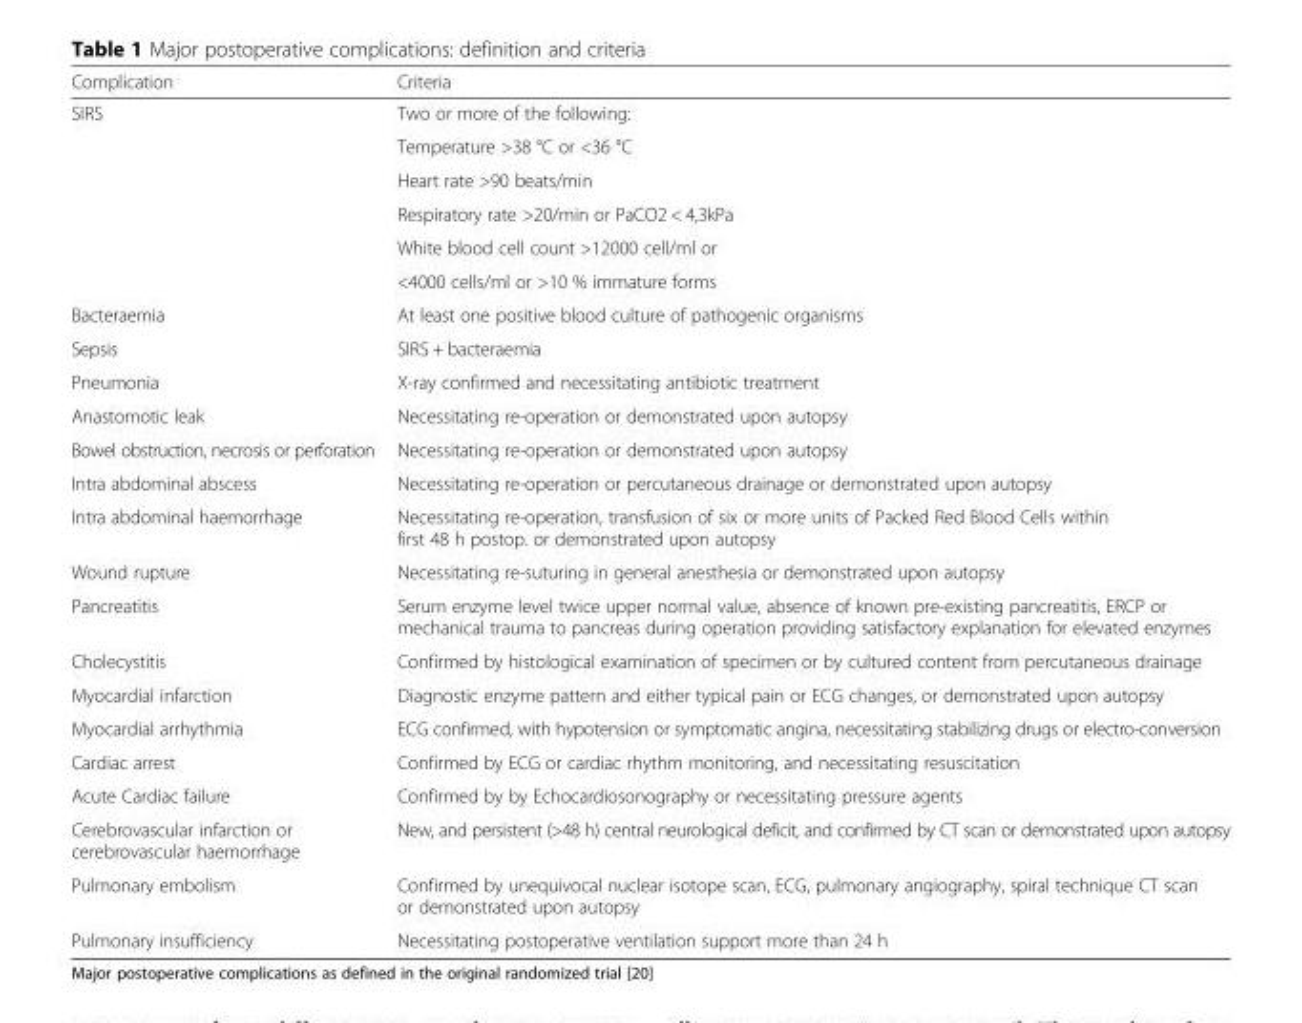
<table><thead><tr><td>Complication</td><td>Criteria</td></tr></thead><tbody><tr><td rowspan="6">SIRS</td><td>Two or more of the following:</td></tr><tr><td>Temperature &gt;38 °C or &lt;36 °C</td></tr><tr><td>Heart rate &gt;90 beats/min</td></tr><tr><td>Respiratory rate &gt;20/min or PaCO2 &lt; 4,3kPa</td></tr><tr><td>White blood cell count &gt;12000 cell/ml or</td></tr><tr><td>&lt;4000 cells/ml or &gt;10 % immature forms</td></tr><tr><td>Bacteraemia</td><td>At least one positive blood culture of pathogenic organisms</td></tr><tr><td>Sepsis</td><td>SIRS + bacteraemia</td></tr><tr><td>Pneumonia</td><td>X-ray confirmed and necessitating antibiotic treatment</td></tr><tr><td>Anastomotic leak</td><td>Necessitating re-operation or demonstrated upon autopsy</td></tr><tr><td>Bowel obstruction, necrosis or perforation</td><td>Necessitating re-operation or demonstrated upon autopsy</td></tr><tr><td>Intra abdominal abscess</td><td>Necessitating re-operation or percutaneous drainage or demonstrated upon autopsy</td></tr><tr><td>Intra abdominal haemorrhage</td><td>Necessitating re-operation, transfusion of six or more units of Packed Red Blood Cells within first 48 h postop. or demonstrated upon autopsy</td></tr><tr><td>Wound rupture</td><td>Necessitating re-suturing in general anesthesia or demonstrated upon autopsy</td></tr><tr><td>Pancreatitis</td><td>Serum enzyme level twice upper normal value, absence of known pre-existing pancreatitis, ERCP or mechanical trauma to pancreas during operation providing satisfactory explanation for elevated enzymes</td></tr><tr><td>Cholecystitis</td><td>Confirmed by histological examination of specimen or by cultured content from percutaneous drainage</td></tr><tr><td>Myocardial infarction</td><td>Diagnostic enzyme pattern and either typical pain or ECG changes, or demonstrated upon autopsy</td></tr><tr><td>Myocardial arrhythmia</td><td>ECG confirmed, with hypotension or symptomatic angina, necessitating stabilizing drugs or electro-conversion</td></tr><tr><td>Cardiac arrest</td><td>Confirmed by ECG or cardiac rhythm monitoring, and necessitating resuscitation</td></tr><tr><td>Acute Cardiac failure</td><td>Confirmed by by Echocardiosonography or necessitating pressure agents</td></tr><tr><td>Cerebrovascular infarction or cerebrovascular haemorrhage</td><td>New, and persistent (&gt;48 h) central neurological deficit, and confirmed by CT scan or demonstrated upon autopsy</td></tr><tr><td>Pulmonary embolism</td><td>Confirmed by unequivocal nuclear isotope scan, ECG, pulmonary angiography, spiral technique CT scan or demonstrated upon autopsy</td></tr><tr><td>Pulmonary insufficiency</td><td>Necessitating postoperative ventilation support more than 24 h</td></tr></tbody></table>